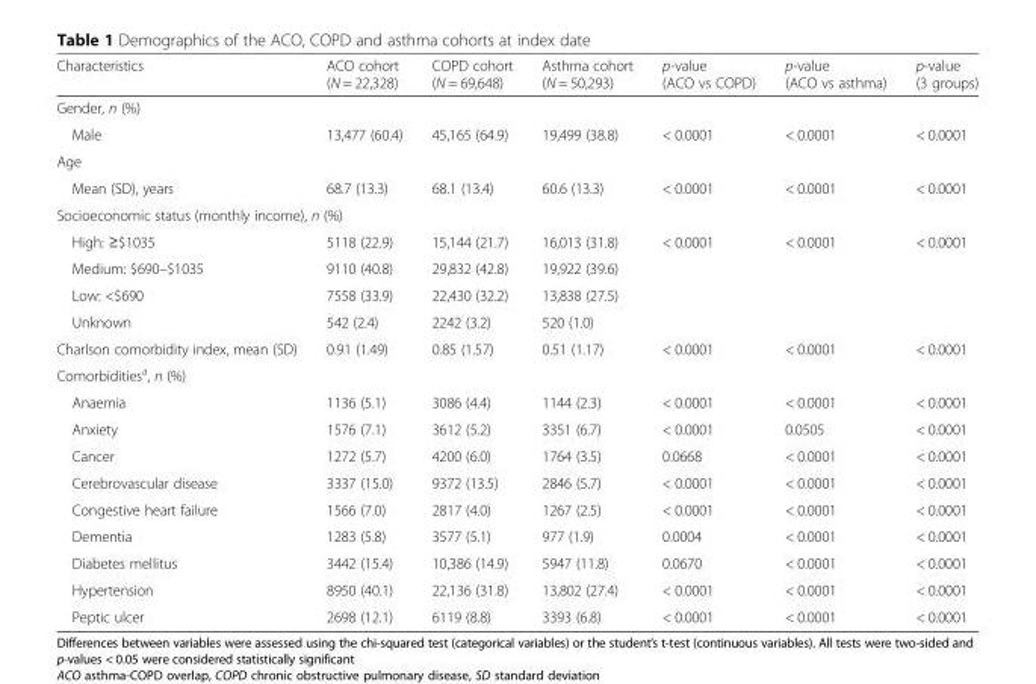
<table><thead><tr><td>Characteristics</td><td>ACO cohort (N = 22,328)</td><td>COPD cohort (N = 69,648)</td><td>Asthma cohort (N = 50,293)</td><td>p-value (ACO vs COPD)</td><td>p-value (ACO vs asthma)</td><td>p-value (3 groups)</td></tr></thead><tbody><tr><td colspan="7">Gender, n (%)</td></tr><tr><td>Male</td><td>13,477 (60.4)</td><td>45,165 (64.9)</td><td>19,499 (38.8)</td><td>&lt; 0.0001</td><td>&lt; 0.0001</td><td>&lt; 0.0001</td></tr><tr><td colspan="7">Age</td></tr><tr><td>Mean (SD), years</td><td>68.7 (13.3)</td><td>68.1 (13.4)</td><td>60.6 (13.3)</td><td>&lt; 0.0001</td><td>&lt; 0.0001</td><td>&lt; 0.0001</td></tr><tr><td colspan="7">Socioeconomic status (monthly income), n (%)</td></tr><tr><td>High: ≥$1035</td><td>5118 (22.9)</td><td>15,144 (21.7)</td><td>16,013 (31.8)</td><td rowspan="4">&lt; 0.0001</td><td rowspan="4">&lt; 0.0001</td><td rowspan="4">&lt; 0.0001</td></tr><tr><td>Medium: $690–$1035</td><td>9110 (40.8)</td><td>29,832 (42.8)</td><td>19,922 (39.6)</td></tr><tr><td>Low: &lt;$690</td><td>7558 (33.9)</td><td>22,430 (32.2)</td><td>13,838 (27.5)</td></tr><tr><td>Unknown</td><td>542 (2.4)</td><td>2242 (3.2)</td><td>520 (1.0)</td></tr><tr><td>Charlson comorbidity index, mean (SD)</td><td>0.91 (1.49)</td><td>0.85 (1.57)</td><td>0.51 (1.17)</td><td>&lt; 0.0001</td><td>&lt; 0.0001</td><td>&lt; 0.0001</td></tr><tr><td colspan="7">Comorbidities<sup>a</sup>, n (%)</td></tr><tr><td>Anaemia</td><td>1136 (5.1)</td><td>3086 (4.4)</td><td>1144 (2.3)</td><td>&lt; 0.0001</td><td>&lt; 0.0001</td><td>&lt; 0.0001</td></tr><tr><td>Anxiety</td><td>1576 (7.1)</td><td>3612 (5.2)</td><td>3351 (6.7)</td><td>&lt; 0.0001</td><td>0.0505</td><td>&lt; 0.0001</td></tr><tr><td>Cancer</td><td>1272 (5.7)</td><td>4200 (6.0)</td><td>1764 (3.5)</td><td>0.0668</td><td>&lt; 0.0001</td><td>&lt; 0.0001</td></tr><tr><td>Cerebrovascular disease</td><td>3337 (15.0)</td><td>9372 (13.5)</td><td>2846 (5.7)</td><td>&lt; 0.0001</td><td>&lt; 0.0001</td><td>&lt; 0.0001</td></tr><tr><td>Congestive heart failure</td><td>1566 (7.0)</td><td>2817 (4.0)</td><td>1267 (2.5)</td><td>&lt; 0.0001</td><td>&lt; 0.0001</td><td>&lt; 0.0001</td></tr><tr><td>Dementia</td><td>1283 (5.8)</td><td>3577 (5.1)</td><td>977 (1.9)</td><td>0.0004</td><td>&lt; 0.0001</td><td>&lt; 0.0001</td></tr><tr><td>Diabetes mellitus</td><td>3442 (15.4)</td><td>10,386 (14.9)</td><td>5947 (11.8)</td><td>0.0670</td><td>&lt; 0.0001</td><td>&lt; 0.0001</td></tr><tr><td>Hypertension</td><td>8950 (40.1)</td><td>22,136 (31.8)</td><td>13,802 (27.4)</td><td>&lt; 0.0001</td><td>&lt; 0.0001</td><td>&lt; 0.0001</td></tr><tr><td>Peptic ulcer</td><td>2698 (12.1)</td><td>6119 (8.8)</td><td>3393 (6.8)</td><td>&lt; 0.0001</td><td>&lt; 0.0001</td><td>&lt; 0.0001</td></tr></tbody></table>